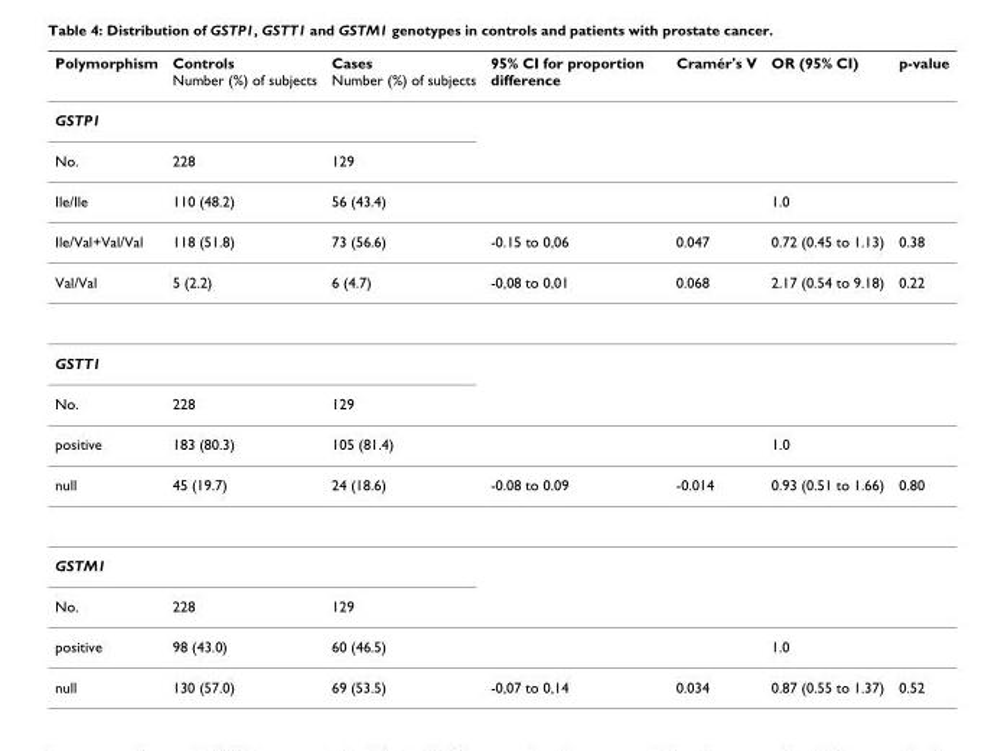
<table><thead><tr><td>Polymorphism</td><td>Controls Number (%) of subjects</td><td>Cases Number (%) of subjects</td><td>95% CI for proportion difference</td><td>Cramér&#x27;s V</td><td>OR (95% CI)</td><td>p-value</td></tr></thead><tbody><tr><td colspan="7">GSTP1</td></tr><tr><td>No.</td><td>228</td><td>129</td><td></td><td></td><td></td><td></td></tr><tr><td>Ile/Ile</td><td>110 (48.2)</td><td>56 (43.4)</td><td></td><td></td><td>1.0</td><td></td></tr><tr><td>Ile/Val+Val/Val</td><td>118 (51.8)</td><td>73 (56.6)</td><td>-0.15 to 0,06</td><td>0.047</td><td>0.72 (0.45 to 1.13)</td><td>0.38</td></tr><tr><td>Val/Val</td><td>5 (2.2)</td><td>6 (4.7)</td><td>-0,08 to 0,01</td><td>0.068</td><td>2.17 (0.54 to 9.18)</td><td>0.22</td></tr><tr><td colspan="7">GSTT1</td></tr><tr><td>No.</td><td>228</td><td>129</td><td></td><td></td><td></td><td></td></tr><tr><td>positive</td><td>183 (80.3)</td><td>105 (81.4)</td><td></td><td></td><td>1.0</td><td></td></tr><tr><td>null</td><td>45 (19.7)</td><td>24 (18.6)</td><td>-0.08 to 0.09</td><td>-0.014</td><td>0.93 (0.51 to 1.66)</td><td>0.80</td></tr><tr><td colspan="7">GSTM1</td></tr><tr><td>No.</td><td>228</td><td>129</td><td></td><td></td><td></td><td></td></tr><tr><td>positive</td><td>98 (43.0)</td><td>60 (46.5)</td><td></td><td></td><td>1.0</td><td></td></tr><tr><td>null</td><td>130 (57.0)</td><td>69 (53.5)</td><td>-0,07 to 0,14</td><td>0.034</td><td>0.87 (0.55 to 1.37)</td><td>0.52</td></tr></tbody></table>